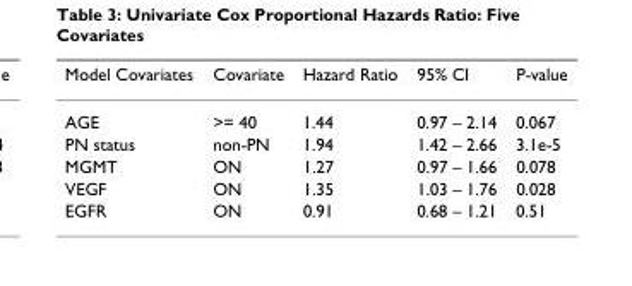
<table><thead><tr><td>Model Covariates</td><td>Covariate</td><td>Hazard Ratio</td><td>95% CI</td><td>P-value</td></tr></thead><tbody><tr><td>AGE</td><td>&gt;= 40</td><td>1.44</td><td>0.97 – 2.14</td><td>0.067</td></tr><tr><td>PN status</td><td>non-PN</td><td>1.94</td><td>1.42 – 2.66</td><td>3.1e-5</td></tr><tr><td>MGMT</td><td>ON</td><td>1.27</td><td>0.97 – 1.66</td><td>0.078</td></tr><tr><td>VEGF</td><td>ON</td><td>1.35</td><td>1.03 – 1.76</td><td>0.028</td></tr><tr><td>EGFR</td><td>ON</td><td>0.91</td><td>0.68 – 1.21</td><td>0.51</td></tr></tbody></table>